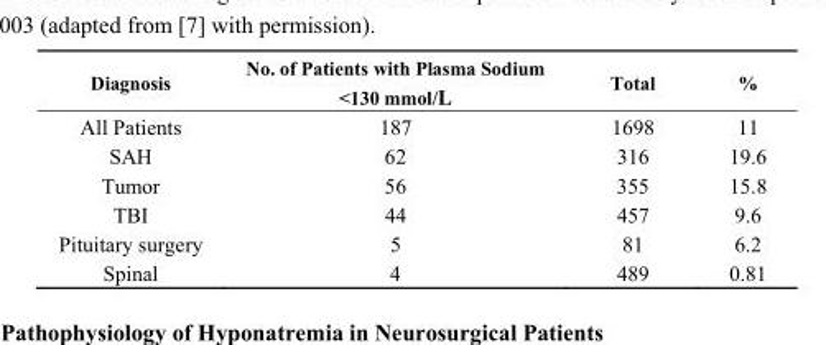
<table><thead><tr><td>Diagnosis</td><td>No. of Patients with Plasma Sodium &lt;130 mmol/L</td><td>Total</td><td>%</td></tr></thead><tbody><tr><td>All Patients</td><td>187</td><td>1698</td><td>11</td></tr><tr><td>SAH</td><td>62</td><td>316</td><td>19.6</td></tr><tr><td>Tumor</td><td>56</td><td>355</td><td>15.8</td></tr><tr><td>TBI</td><td>44</td><td>457</td><td>9.6</td></tr><tr><td>Pituitary surgery</td><td>5</td><td>81</td><td>6.2</td></tr><tr><td>Spinal</td><td>4</td><td>489</td><td>0.81</td></tr></tbody></table>